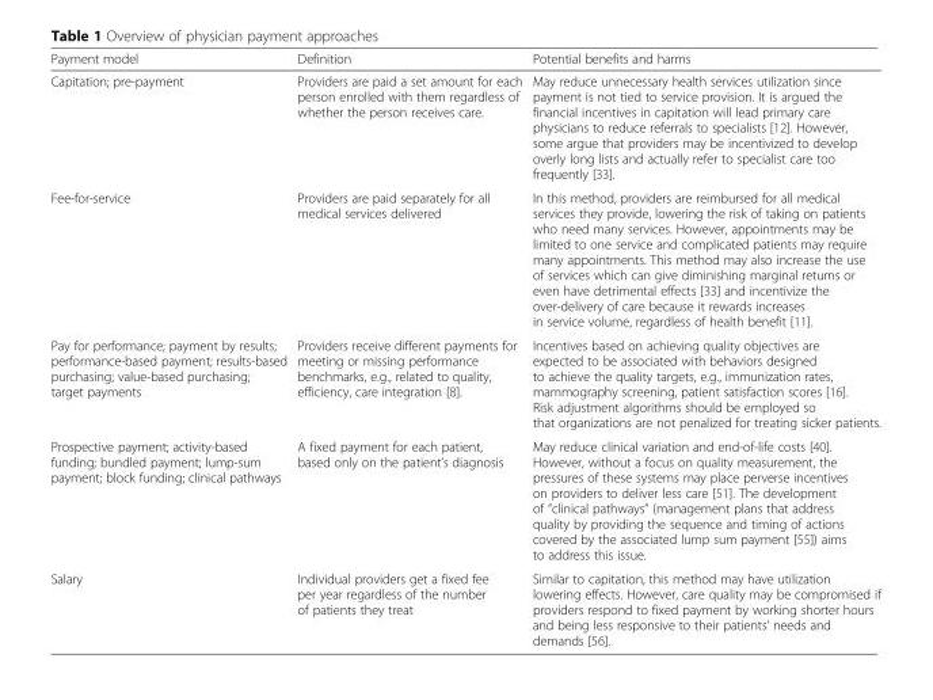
<table><thead><tr><td>Payment model</td><td>Definition</td><td>Potential benefits and harms</td></tr></thead><tbody><tr><td>Capitation; pre-payment</td><td>Providers are paid a set amount for each person enrolled with them regardless of whether the person receives care.</td><td>May reduce unnecessary health services utilization since payment is not tied to service provision. It is argued the financial incentives in capitation will lead primary care physicians to reduce referrals to specialists [12]. However, some argue that providers may be incentivized to develop overly long lists and actually refer to specialist care too frequently [33].</td></tr><tr><td>Fee-for-service</td><td>Providers are paid separately for all medical services delivered</td><td>In this method, providers are reimbursed for all medical services they provide, lowering the risk of taking on patients who need many services. However, appointments may be limited to one service and complicated patients may require many appointments. This method may also increase the use of services which can give diminishing marginal returns or even have detrimental effects [33] and incentivize the over-delivery of care because it rewards increases in service volume, regardless of health benefit [11].</td></tr><tr><td>Pay for performance; payment by results; performance-based payment; results-based purchasing; value-based purchasing; target payments</td><td>Providers receive different payments for meeting or missing performance benchmarks, e.g., related to quality, efficiency, care integration [8].</td><td>Incentives based on achieving quality objectives are expected to be associated with behaviors designed to achieve the quality targets, e.g., immunization rates, mammography screening, patient satisfaction scores [16]. Risk adjustment algorithms should be employed so that organizations are not penalized for treating sicker patients.</td></tr><tr><td>Prospective payment; activity-based funding; bundled payment; lump-sum payment; block funding; clinical pathways</td><td>A fixed payment for each patient, based only on the patient’s diagnosis</td><td>May reduce clinical variation and end-of-life costs [40]. However, without a focus on quality measurement, the pressures of these systems may place perverse incentives on providers to deliver less care [51]. The development of “clinical pathways” (management plans that address quality by providing the sequence and timing of actions covered by the associated lump sum payment [55]) aims to address this issue.</td></tr><tr><td>Salary</td><td>Individual providers get a fixed fee per year regardless of the number of patients they treat</td><td>Similar to capitation, this method may have utilization lowering effects. However, care quality may be compromised if providers respond to fixed payment by working shorter hours and being less responsive to their patients’ needs and demands [56].</td></tr></tbody></table>